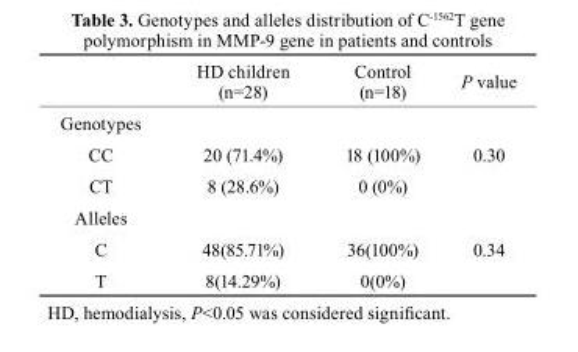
<table><thead><tr><td></td><td>HD children (n=28)</td><td>Control (n=18)</td><td>P value</td></tr></thead><tbody><tr><td colspan="4">Genotypes</td></tr><tr><td>CC</td><td>20 (71.4%)</td><td>18 (100%)</td><td>0.30</td></tr><tr><td>CT</td><td>8 (28.6%)</td><td>0 (0%)</td><td></td></tr><tr><td colspan="4">Alleles</td></tr><tr><td>C</td><td>48(85.71%)</td><td>36(100%)</td><td>0.34</td></tr><tr><td>T</td><td>8(14.29%)</td><td>0(0%)</td><td></td></tr></tbody></table>